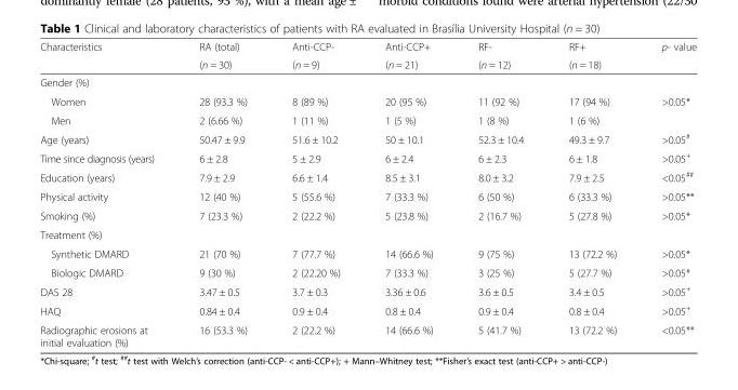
<table><thead><tr><td rowspan="2">Characteristics</td><td rowspan="2">RA (total) (n = 30)</td><td rowspan="2">Anti-CCP- (n = 9)</td><td rowspan="2">Anti-CCP+ (n = 21)</td><td rowspan="2">RF- (n = 12)</td><td rowspan="2">RF+ (n = 18)</td><td rowspan="2">p- value</td></tr><tr></tr></thead><tbody><tr><td colspan="7">Gender (%)</td></tr><tr><td>Women</td><td>28 (93.3 %)</td><td>8 (89 %)</td><td>20 (95 %)</td><td>11 (92 %)</td><td>17 (94 %)</td><td>&gt;0.05*</td></tr><tr><td>Men</td><td>2 (6.66 %)</td><td>1 (11 %)</td><td>1 (5 %)</td><td>1 (8 %)</td><td>1 (6 %)</td><td></td></tr><tr><td>Age (years)</td><td>50.47 ± 9.9</td><td>51.6 ± 10.2</td><td>50 ± 10.1</td><td>52.3 ± 10.4</td><td>49.3 ± 9.7</td><td>&gt;0.05<sup>#</sup></td></tr><tr><td>Time since diagnosis (years)</td><td>6 ± 2.8</td><td>5 ± 2.9</td><td>6 ± 2.4</td><td>6 ± 2.3</td><td>6 ± 1.8</td><td>&gt;0.05<sup>+</sup></td></tr><tr><td>Education (years)</td><td>7.9 ± 2.9</td><td>6.6 ± 1.4</td><td>8.5 ± 3.1</td><td>8.0 ± 3.2</td><td>7.9 ± 2.5</td><td>&lt;0.05<sup>##</sup></td></tr><tr><td>Physical activity</td><td>12 (40 %)</td><td>5 (55.6 %)</td><td>7 (33.3 %)</td><td>6 (50 %)</td><td>6 (33.3 %)</td><td>&gt;0.05**</td></tr><tr><td>Smoking (%)</td><td>7 (23.3 %)</td><td>2 (22.2 %)</td><td>5 (23.8 %)</td><td>2 (16.7 %)</td><td>5 (27.8 %)</td><td>&gt;0.05*</td></tr><tr><td colspan="7">Treatment (%)</td></tr><tr><td>Synthetic DMARD</td><td>21 (70 %)</td><td>7 (77.7 %)</td><td>14 (66.6 %)</td><td>9 (75 %)</td><td>13 (72.2 %)</td><td>&gt;0.05*</td></tr><tr><td>Biologic DMARD</td><td>9 (30 %)</td><td>2 (22.20 %)</td><td>7 (33.3 %)</td><td>3 (25 %)</td><td>5 (27.7 %)</td><td>&gt;0.05*</td></tr><tr><td>DAS 28</td><td>3.47 ± 0.5</td><td>3.7 ± 0.3</td><td>3.36 ± 0.6</td><td>3.6 ± 0.5</td><td>3.4 ± 0.5</td><td>&gt;0.05<sup>+</sup></td></tr><tr><td>HAQ</td><td>0.84 ± 0.4</td><td>0.9 ± 0.4</td><td>0.8 ± 0.4</td><td>0.9 ± 0.4</td><td>0.8 ± 0.4</td><td>&gt;0.05<sup>+</sup></td></tr><tr><td>Radiographic erosions at initial evaluation (%)</td><td>16 (53.3 %)</td><td>2 (22.2 %)</td><td>14 (66.6 %)</td><td>5 (41.7 %)</td><td>13 (72.2 %)</td><td>&lt;0.05**</td></tr></tbody></table>